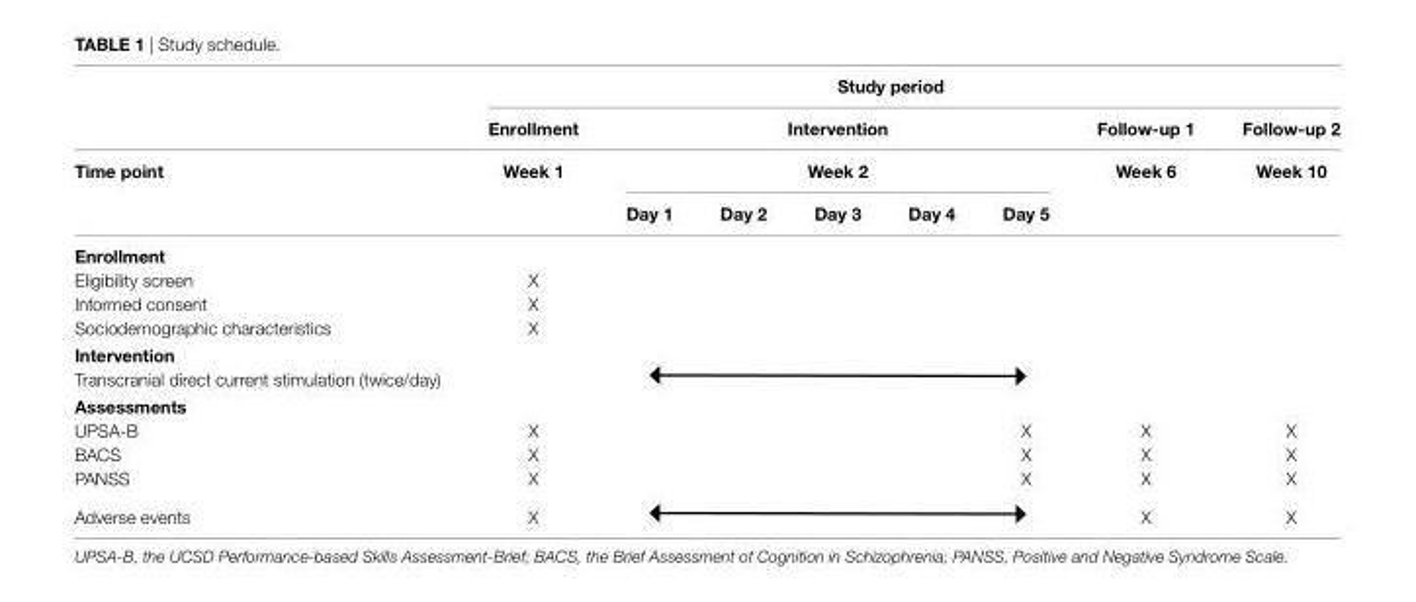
<table><thead><tr><td rowspan="4">time point</td><td colspan="8">study period</td></tr><tr><td rowspan="3">Enrollment Week 1</td><td rowspan="2" colspan="5">Intervention Week 2</td><td rowspan="3">Follow-up 1 Week 6</td><td rowspan="3">Follow-up 2 Week 10</td></tr><tr></tr><tr><td>Day 1</td><td>Day 2</td><td>Day 3</td><td>Day 4</td><td>Day 5</td></tr></thead><tbody><tr><td colspan="9">Enrollment</td></tr><tr><td>Eligibility screen</td><td>X</td><td></td><td></td><td></td><td></td><td></td><td></td><td></td></tr><tr><td>Informed consent</td><td>X</td><td></td><td></td><td></td><td></td><td></td><td></td><td></td></tr><tr><td>Sociodemographic characteristics</td><td>X</td><td></td><td></td><td></td><td></td><td></td><td></td><td></td></tr><tr><td colspan="9">Intervention</td></tr><tr><td colspan="9">Transcranial direct current stimulation (twice/day)</td></tr><tr><td colspan="9">Assessments</td></tr><tr><td>UPSA-B</td><td>X</td><td></td><td></td><td></td><td></td><td>X</td><td>X</td><td>X</td></tr><tr><td>BACS</td><td>X</td><td></td><td></td><td></td><td></td><td>X</td><td>X</td><td>X</td></tr><tr><td>PANSS</td><td>X</td><td></td><td></td><td></td><td></td><td>X</td><td>X</td><td>X</td></tr><tr><td>Adverse events</td><td>X</td><td colspan="5"></td><td>X</td><td>X</td></tr></tbody></table>